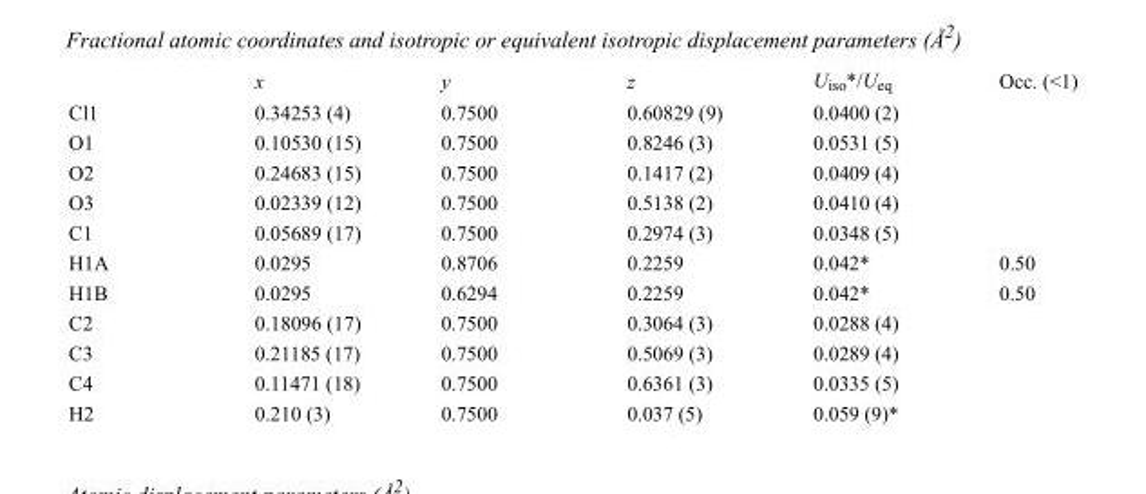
<table><thead><tr><td></td><td>x</td><td>y</td><td>z</td><td>U<sub>iso</sub>*/U<sub>eq</sub></td><td>Occ. (&lt;1)</td></tr></thead><tbody><tr><td>Cl1</td><td>0.34253 (4)</td><td>0.7500</td><td>0.60829 (9)</td><td>0.0400 (2)</td><td></td></tr><tr><td>O1</td><td>0.10530 (15)</td><td>0.7500</td><td>0.8246 (3)</td><td>0.0531 (5)</td><td></td></tr><tr><td>O2</td><td>0.24683 (15)</td><td>0.7500</td><td>0.1417 (2)</td><td>0.0409 (4)</td><td></td></tr><tr><td>O3</td><td>0.02339 (12)</td><td>0.7500</td><td>0.5138 (2)</td><td>0.0410 (4)</td><td></td></tr><tr><td>C1</td><td>0.05689 (17)</td><td>0.7500</td><td>0.2974 (3)</td><td>0.0348 (5)</td><td></td></tr><tr><td>H1A</td><td>0.0295</td><td>0.8706</td><td>0.2259</td><td>0.042*</td><td>0.50</td></tr><tr><td>H1B</td><td>0.0295</td><td>0.6294</td><td>0.2259</td><td>0.042*</td><td>0.50</td></tr><tr><td>C2</td><td>0.18096 (17)</td><td>0.7500</td><td>0.3064 (3)</td><td>0.0288 (4)</td><td></td></tr><tr><td>C3</td><td>0.21185 (17)</td><td>0.7500</td><td>0.5069 (3)</td><td>0.0289 (4)</td><td></td></tr><tr><td>C4</td><td>0.11471 (18)</td><td>0.7500</td><td>0.6361 (3)</td><td>0.0335 (5)</td><td></td></tr><tr><td>H2</td><td>0.210 (3)</td><td>0.7500</td><td>0.037 (5)</td><td>0.059 (9)*</td><td></td></tr></tbody></table>